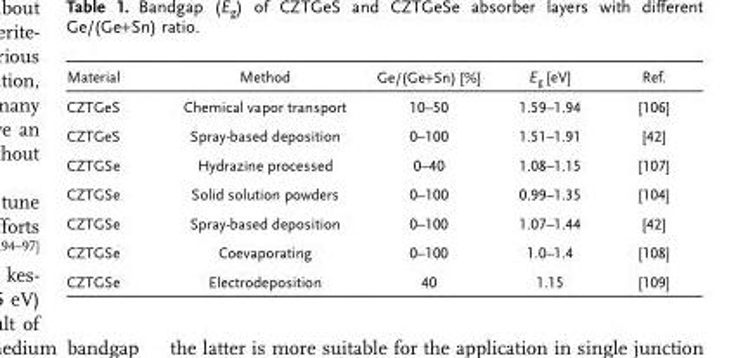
<table><thead><tr><td>Material</td><td>Method</td><td>Ge/(Ge+Sn) [%]</td><td>E<sub>g</sub> [eV]</td><td>Ref.</td></tr></thead><tbody><tr><td>CZTGeS</td><td>Chemical vapor transport</td><td>10–50</td><td>1.59–1.94</td><td>[106]</td></tr><tr><td>CZTGeS</td><td>Spray-based deposition</td><td>0–100</td><td>1.51–1.91</td><td>[42]</td></tr><tr><td>CZTGSe</td><td>Hydrazine processed</td><td>0–40</td><td>1.08–1.15</td><td>[107]</td></tr><tr><td>CZTGSe</td><td>Solid solution powders</td><td>0–100</td><td>0.99–1.35</td><td>[104]</td></tr><tr><td>CZTGSe</td><td>Spray-based deposition</td><td>0–100</td><td>1.07–1.44</td><td>[42]</td></tr><tr><td>CZTGSe</td><td>Coevaporating</td><td>0–100</td><td>1.0–1.4</td><td>[108]</td></tr><tr><td>CZTGSe</td><td>Electrodeposition</td><td>40</td><td>1.15</td><td>[109]</td></tr></tbody></table>